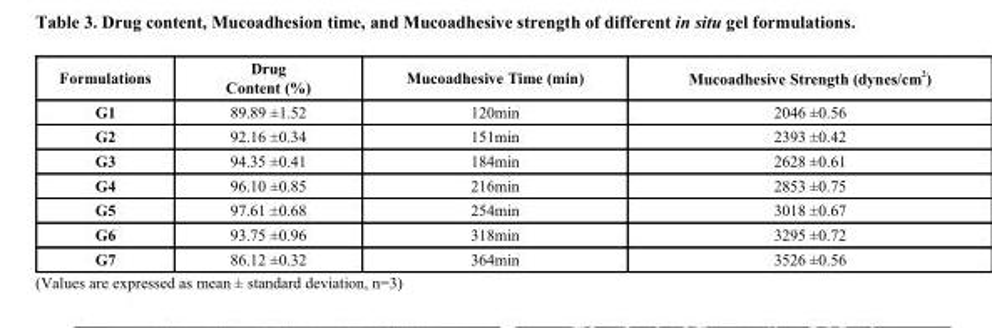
<table><thead><tr><td>Formulations</td><td>Drug Content (%)</td><td>Mucoadhesive Time (min)</td><td>Mucoadhesive Strength (dynes/cm <sup>2</sup>)</td></tr></thead><tbody><tr><td>G1</td><td>89.89 ±1.52</td><td>120min</td><td>2046 ±0.56</td></tr><tr><td>G2</td><td>92.16 ±0.34</td><td>151min</td><td>2393 ±0.42</td></tr><tr><td>G3</td><td>94.35 ±0.41</td><td>184min</td><td>2628 ±0.61</td></tr><tr><td>G4</td><td>96.10 ±0.85</td><td>216min</td><td>2853 ±0.75</td></tr><tr><td>G5</td><td>97.61 ±0.68</td><td>254min</td><td>3018 ±0.67</td></tr><tr><td>G6</td><td>93.75 ±0.96</td><td>318min</td><td>3295 ±0.72</td></tr><tr><td>G7</td><td>86.12 ±0.32</td><td>364min</td><td>3526 ±0.56</td></tr></tbody></table>